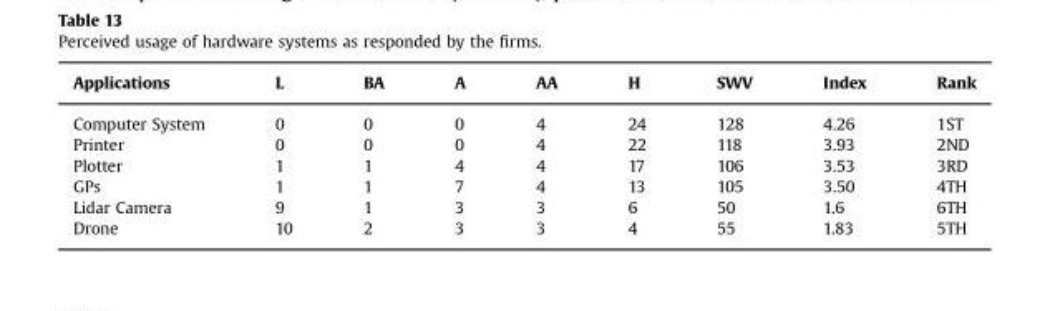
<table><thead><tr><td>Applications</td><td>L</td><td>BA</td><td>A</td><td>AA</td><td>H</td><td>SWV</td><td>Index</td><td>Rank</td></tr></thead><tbody><tr><td>Computer System</td><td>0</td><td>0</td><td>0</td><td>4</td><td>24</td><td>128</td><td>4.26</td><td>1ST</td></tr><tr><td>Printer</td><td>0</td><td>0</td><td>0</td><td>4</td><td>22</td><td>118</td><td>3.93</td><td>2ND</td></tr><tr><td>Plotter</td><td>1</td><td>1</td><td>4</td><td>4</td><td>17</td><td>106</td><td>3.53</td><td>3RD</td></tr><tr><td>GPs</td><td>1</td><td>1</td><td>7</td><td>4</td><td>13</td><td>105</td><td>3.50</td><td>4TH</td></tr><tr><td>Lidar Camera</td><td>9</td><td>1</td><td>3</td><td>3</td><td>6</td><td>50</td><td>1.6</td><td>6TH</td></tr><tr><td>Drone</td><td>10</td><td>2</td><td>3</td><td>3</td><td>4</td><td>55</td><td>1.83</td><td>5TH</td></tr></tbody></table>